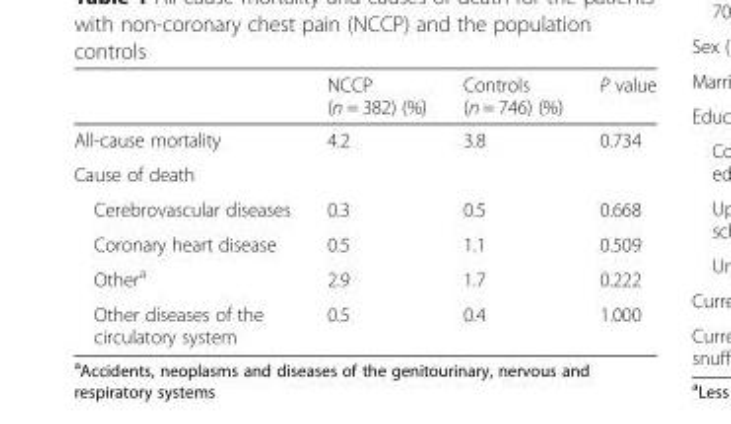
<table><thead><tr><td></td><td>NCCP (n = 382) (%)</td><td>Controls (n = 746) (%)</td><td>P value</td></tr></thead><tbody><tr><td>All-cause mortality</td><td>4.2</td><td>3.8</td><td>0.734</td></tr><tr><td colspan="4">Cause of death</td></tr><tr><td>Cerebrovascular diseases</td><td>0.3</td><td>0.5</td><td>0.668</td></tr><tr><td>Coronary heart disease</td><td>0.5</td><td>1.1</td><td>0.509</td></tr><tr><td>Other<sup>a</sup></td><td>2.9</td><td>1.7</td><td>0.222</td></tr><tr><td>Other diseases of the circulatory system</td><td>0.5</td><td>0.4</td><td>1.000</td></tr></tbody></table>